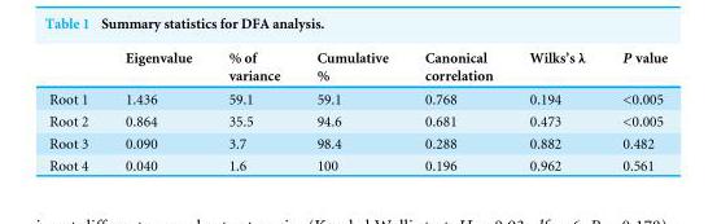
<table><thead><tr><td></td><td>Eigenvalue</td><td>% of variance</td><td>Cumulative %</td><td>Canonical correlation</td><td>Wilks’s λ</td><td>P value</td></tr></thead><tbody><tr><td>Root 1</td><td>1.436</td><td>59.1</td><td>59.1</td><td>0.768</td><td>0.194</td><td>&lt;0.005</td></tr><tr><td>Root 2</td><td>0.864</td><td>35.5</td><td>94.6</td><td>0.681</td><td>0.473</td><td>&lt;0.005</td></tr><tr><td>Root 3</td><td>0.090</td><td>3.7</td><td>98.4</td><td>0.288</td><td>0.882</td><td>0.482</td></tr><tr><td>Root 4</td><td>0.040</td><td>1.6</td><td>100</td><td>0.196</td><td>0.962</td><td>0.561</td></tr></tbody></table>